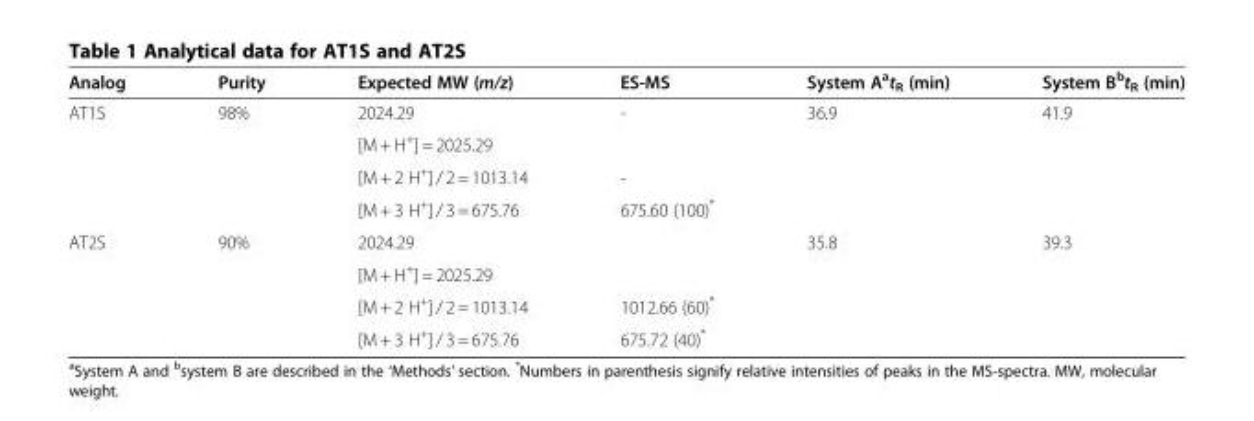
<table><thead><tr><td>Analog</td><td>Purity</td><td>Expected MW (m/z)</td><td>ES-MS</td><td>System A<sup>a</sup>t<sub>R</sub> (min)</td><td>System B<sup>b</sup>t<sub>R</sub> (min)</td></tr></thead><tbody><tr><td rowspan="4">AT1S</td><td>98%</td><td>2024.29</td><td>-</td><td>36.9</td><td>41.9</td></tr><tr><td></td><td>[M + H<sup>+</sup>] = 2025.29</td><td></td><td></td><td></td></tr><tr><td></td><td>[M + 2 H<sup>+</sup>] / 2 = 1013.14</td><td>-</td><td></td><td></td></tr><tr><td></td><td>[M + 3 H<sup>+</sup>] / 3 = 675.76</td><td>675.60 (100)*</td><td></td><td></td></tr><tr><td rowspan="4">AT2S</td><td>90%</td><td>2024.29</td><td></td><td>35.8</td><td>39.3</td></tr><tr><td></td><td>[M + H<sup>+</sup>] = 2025.29</td><td></td><td></td><td></td></tr><tr><td></td><td>[M + 2 H<sup>+</sup>] / 2 = 1013.14</td><td>1012.66 (60)*</td><td></td><td></td></tr><tr><td></td><td>[M + 3 H<sup>+</sup>] / 3 = 675.76</td><td>675.72 (40)*</td><td></td><td></td></tr></tbody></table>